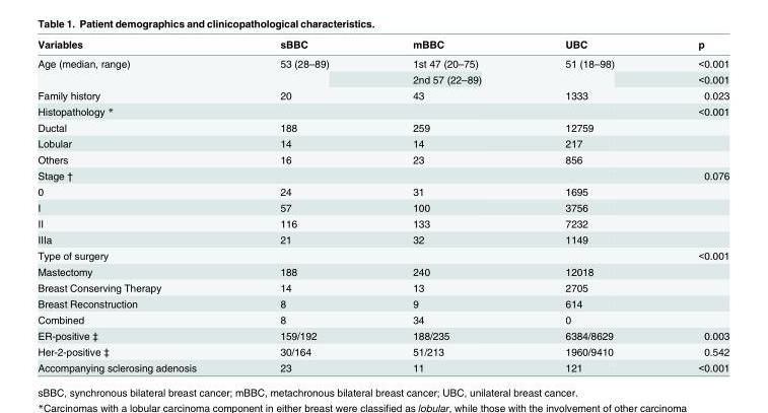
<table><thead><tr><td>Variables</td><td>sBBC</td><td>mBBC</td><td>UBC</td><td>p</td></tr></thead><tbody><tr><td rowspan="2">Age (median, range)</td><td rowspan="2">53 (28–89)</td><td>1st 47 (20–75)</td><td rowspan="2">51 (18–98)</td><td>&lt;0.001</td></tr><tr><td>2nd 57 (22–89)</td><td>&lt;0.001</td></tr><tr><td>Family history</td><td>20</td><td>43</td><td>1333</td><td>0.023</td></tr><tr><td>Histopathology *</td><td></td><td></td><td></td><td>&lt;0.001</td></tr><tr><td>Ductal</td><td>188</td><td>259</td><td>12759</td><td></td></tr><tr><td>Lobular</td><td>14</td><td>14</td><td>217</td><td></td></tr><tr><td>Others</td><td>16</td><td>23</td><td>856</td><td></td></tr><tr><td>Stage †</td><td></td><td></td><td></td><td>0.076</td></tr><tr><td>0</td><td>24</td><td>31</td><td>1695</td><td></td></tr><tr><td>I</td><td>57</td><td>100</td><td>3756</td><td></td></tr><tr><td>II</td><td>116</td><td>133</td><td>7232</td><td></td></tr><tr><td>IIIa</td><td>21</td><td>32</td><td>1149</td><td></td></tr><tr><td>Type of surgery</td><td></td><td></td><td></td><td>&lt;0.001</td></tr><tr><td>Mastectomy</td><td>188</td><td>240</td><td>12018</td><td></td></tr><tr><td>Breast Conserving Therapy</td><td>14</td><td>13</td><td>2705</td><td></td></tr><tr><td>Breast Reconstruction</td><td>8</td><td>9</td><td>614</td><td></td></tr><tr><td>Combined</td><td>8</td><td>34</td><td>0</td><td></td></tr><tr><td>ER-positive ‡</td><td>159/192</td><td>188/235</td><td>6384/8629</td><td>0.003</td></tr><tr><td>Her-2-positive ‡</td><td>30/164</td><td>51/213</td><td>1960/9410</td><td>0.542</td></tr><tr><td>Accompanying sclerosing adenosis</td><td>23</td><td>11</td><td>121</td><td>&lt;0.001</td></tr></tbody></table>